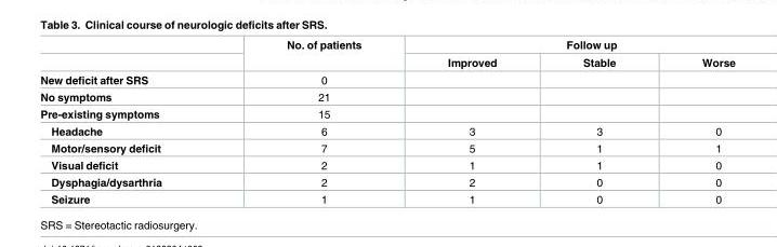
<table><thead><tr><td rowspan="2"></td><td rowspan="2">No. of patients</td><td colspan="3">Follow up</td></tr><tr><td>Improved</td><td>Stable</td><td>Worse</td></tr></thead><tbody><tr><td>New deficit after SRS</td><td>0</td><td></td><td></td><td></td></tr><tr><td>No symptoms</td><td>21</td><td></td><td></td><td></td></tr><tr><td>Pre-existing symptoms</td><td>15</td><td></td><td></td><td></td></tr><tr><td>Headache</td><td>6</td><td>3</td><td>3</td><td>0</td></tr><tr><td>Motor/sensory deficit</td><td>7</td><td>5</td><td>1</td><td>1</td></tr><tr><td>Visual deficit</td><td>2</td><td>1</td><td>1</td><td>0</td></tr><tr><td>Dysphagia/dysarthria</td><td>2</td><td>2</td><td>0</td><td>0</td></tr><tr><td>Seizure</td><td>1</td><td>1</td><td>0</td><td>0</td></tr></tbody></table>